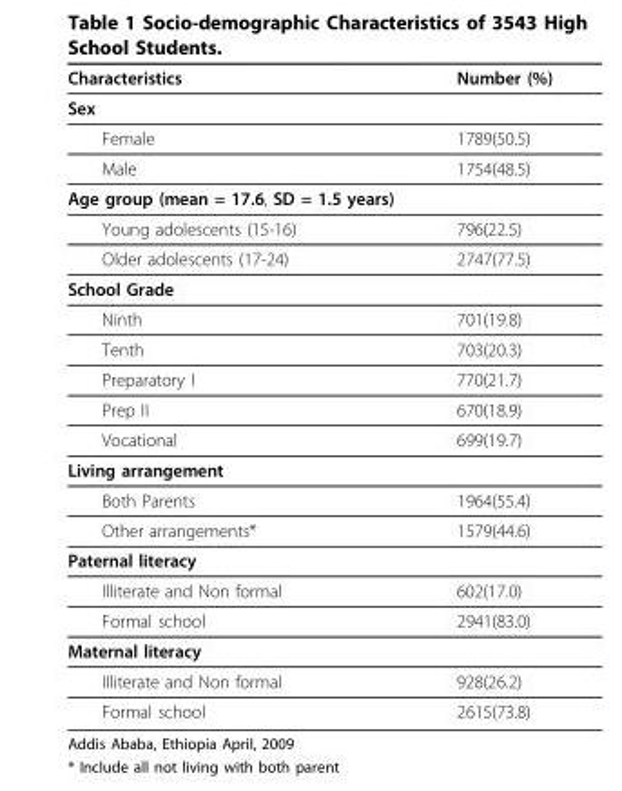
<table><thead><tr><td>Characteristics</td><td>Number (%)</td></tr></thead><tbody><tr><td colspan="2">Sex</td></tr><tr><td>Female</td><td>1789(50.5)</td></tr><tr><td>Male</td><td>1754(48.5)</td></tr><tr><td colspan="2">Age group (mean = 17.6, SD = 1.5 years)</td></tr><tr><td>Young adolescents (15-16)</td><td>796(22.5)</td></tr><tr><td>Older adolescents (17-24)</td><td>2747(77.5)</td></tr><tr><td colspan="2">School Grade</td></tr><tr><td>Ninth</td><td>701(19.8)</td></tr><tr><td>Tenth</td><td>703(20.3)</td></tr><tr><td>Preparatory I</td><td>770(21.7)</td></tr><tr><td>Prep II</td><td>670(18.9)</td></tr><tr><td>Vocational</td><td>699(19.7)</td></tr><tr><td colspan="2">Living arrangement</td></tr><tr><td>Both Parents</td><td>1964(55.4)</td></tr><tr><td>Other arrangements*</td><td>1579(44.6)</td></tr><tr><td colspan="2">Paternal literacy</td></tr><tr><td>Illiterate and Non formal</td><td>602(17.0)</td></tr><tr><td>Formal school</td><td>2941(83.0)</td></tr><tr><td colspan="2">Maternal literacy</td></tr><tr><td>Illiterate and Non formal</td><td>928(26.2)</td></tr><tr><td>Formal school</td><td>2615(73.8)</td></tr></tbody></table>